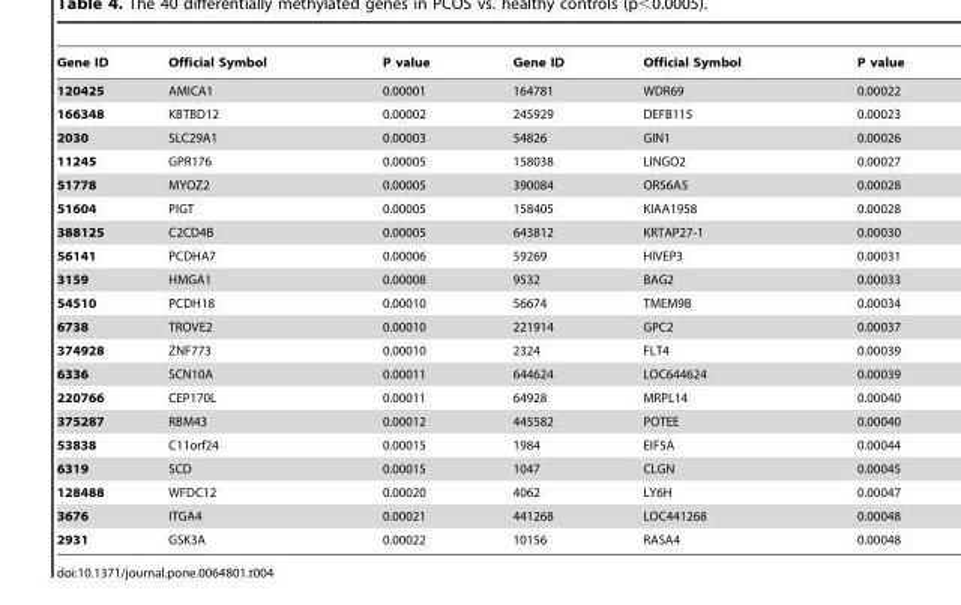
<table><thead><tr><td>Gene ID</td><td>Official Symbol</td><td>P value</td><td>Gene ID</td><td>Official Symbol</td><td>P value</td></tr></thead><tbody><tr><td>120425</td><td>AMICA1</td><td>0.00001</td><td>164781</td><td>WDR69</td><td>0.00022</td></tr><tr><td>166348</td><td>KBTBD12</td><td>0.00002</td><td>245929</td><td>DEFB115</td><td>0.00023</td></tr><tr><td>2030</td><td>SLC29A1</td><td>0.00003</td><td>54826</td><td>GIN1</td><td>0.00026</td></tr><tr><td>11245</td><td>GPR176</td><td>0.00005</td><td>158038</td><td>LINGO2</td><td>0.00027</td></tr><tr><td>51778</td><td>MYOZ2</td><td>0.00005</td><td>390084</td><td>OR56A5</td><td>0.00028</td></tr><tr><td>51604</td><td>PIGT</td><td>0.00005</td><td>158405</td><td>KIAA1958</td><td>0.00028</td></tr><tr><td>388125</td><td>C2CD4B</td><td>0.00005</td><td>643812</td><td>KRTAP27-1</td><td>0.00030</td></tr><tr><td>56141</td><td>PCDHA7</td><td>0.00006</td><td>59269</td><td>HIVEP3</td><td>0.00031</td></tr><tr><td>3159</td><td>HMGA1</td><td>0.00008</td><td>9532</td><td>BAG2</td><td>0.00033</td></tr><tr><td>54510</td><td>PCDH18</td><td>0.00010</td><td>56674</td><td>TMEM9B</td><td>0.00034</td></tr><tr><td>6738</td><td>TROVE2</td><td>0.00010</td><td>221914</td><td>GPC2</td><td>0.00037</td></tr><tr><td>374928</td><td>ZNF773</td><td>0.00010</td><td>2324</td><td>FLT4</td><td>0.00039</td></tr><tr><td>6336</td><td>SCN10A</td><td>0.00011</td><td>644624</td><td>LOC644624</td><td>0.00039</td></tr><tr><td>220766</td><td>CEP170L</td><td>0.00011</td><td>64928</td><td>MRPL14</td><td>0.00040</td></tr><tr><td>375287</td><td>RBM43</td><td>0.00012</td><td>445582</td><td>POTEE</td><td>0.00040</td></tr><tr><td>53838</td><td>C11orf24</td><td>0.00015</td><td>1984</td><td>EIF5A</td><td>0.00044</td></tr><tr><td>6319</td><td>SCD</td><td>0.00015</td><td>1047</td><td>CLGN</td><td>0.00045</td></tr><tr><td>128488</td><td>WFDC12</td><td>0.00020</td><td>4062</td><td>LY6H</td><td>0.00047</td></tr><tr><td>3676</td><td>ITGA4</td><td>0.00021</td><td>441268</td><td>LOC441268</td><td>0.00048</td></tr><tr><td>2931</td><td>GSK3A</td><td>0.00022</td><td>10156</td><td>RASA4</td><td>0.00048</td></tr></tbody></table>